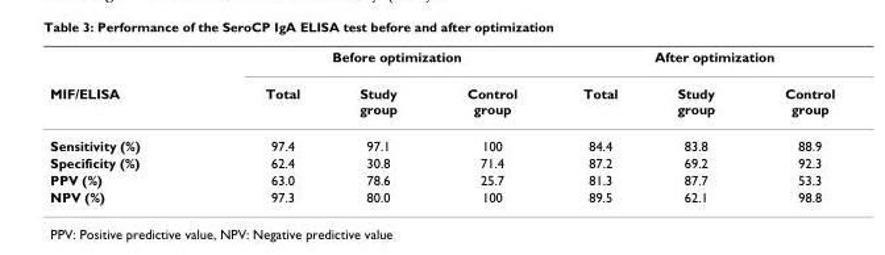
<table><thead><tr><td rowspan="2">MIF/ELISA</td><td colspan="3">Before optimization</td><td colspan="3">After optimization</td></tr><tr><td>Total</td><td>Study group</td><td>Control group</td><td>Total</td><td>Study group</td><td>Control group</td></tr></thead><tbody><tr><td>Sensitivity (%)</td><td>97.4</td><td>97.1</td><td>100</td><td>84.4</td><td>83.8</td><td>88.9</td></tr><tr><td>Specificity (%)</td><td>62.4</td><td>30.8</td><td>71.4</td><td>87.2</td><td>69.2</td><td>92.3</td></tr><tr><td>PPV (%)</td><td>63.0</td><td>78.6</td><td>25.7</td><td>81.3</td><td>87.7</td><td>53.3</td></tr><tr><td>NPV (%)</td><td>97.3</td><td>80.0</td><td>100</td><td>89.5</td><td>62.1</td><td>98.8</td></tr></tbody></table>